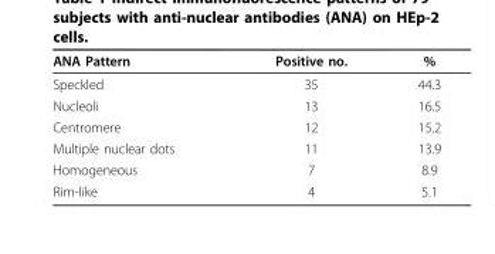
<table><thead><tr><td>ANA Pattern</td><td>Positive no.</td><td>%</td></tr></thead><tbody><tr><td>Speckled</td><td>35</td><td>44.3</td></tr><tr><td>Nucleoli</td><td>13</td><td>16.5</td></tr><tr><td>Centromere</td><td>12</td><td>15.2</td></tr><tr><td>Multiple nuclear dots</td><td>11</td><td>13.9</td></tr><tr><td>Homogeneous</td><td>7</td><td>8.9</td></tr><tr><td>Rim-like</td><td>4</td><td>5.1</td></tr></tbody></table>